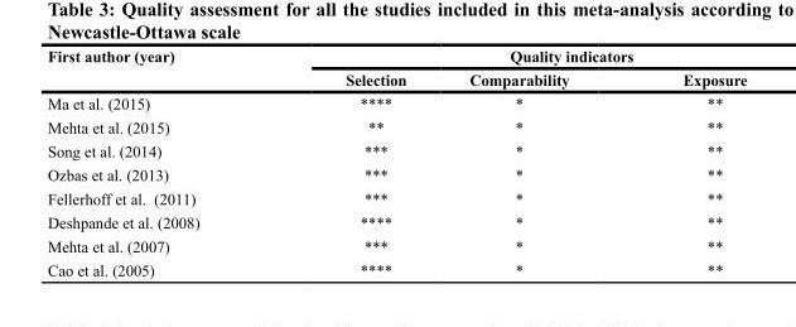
<table><thead><tr><td rowspan="2">First author (year)</td><td colspan="3">Quality indicators</td></tr><tr><td>Selection</td><td>Comparability</td><td>Exposure</td></tr></thead><tbody><tr><td>Ma et al. (2015)</td><td>****</td><td>*</td><td>**</td></tr><tr><td>Mehta et al. (2015)</td><td>**</td><td>*</td><td>**</td></tr><tr><td>Song et al. (2014)</td><td>***</td><td>*</td><td>**</td></tr><tr><td>Ozbas et al. (2013)</td><td>***</td><td>*</td><td>**</td></tr><tr><td>Fellerhoff et al. (2011)</td><td>***</td><td>*</td><td>**</td></tr><tr><td>Deshpande et al. (2008)</td><td>****</td><td>*</td><td>**</td></tr><tr><td>Mehta et al. (2007)</td><td>***</td><td>*</td><td>**</td></tr><tr><td>Cao et al. (2005)</td><td>****</td><td>*</td><td>**</td></tr></tbody></table>